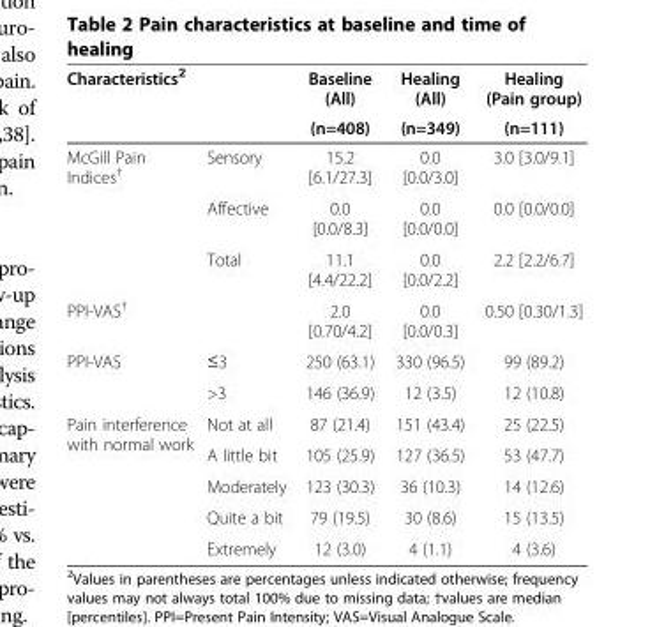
<table><thead><tr><td rowspan="2">Characteristics<sup>2</sup></td><td rowspan="2"></td><td rowspan="2">Baseline (All) (n=408)</td><td rowspan="2">Healing (All) (n=349)</td><td rowspan="2">Healing (Pain group) (n=111)</td></tr><tr></tr></thead><tbody><tr><td rowspan="3">McGill Pain Indices<sup>†</sup></td><td>Sensory</td><td>15.2 [6.1/27.3]</td><td>0.0 [0.0/3.0]</td><td>3.0 [3.0/9.1]</td></tr><tr><td>Affective</td><td>0.0 [0.0/8.3]</td><td>0.0 [0.0/0.0]</td><td>0.0 [0.0/0.0]</td></tr><tr><td>Total</td><td>11.1 [4.4/22.2]</td><td>0.0 [0.0/2.2]</td><td>2.2 [2.2/6.7]</td></tr><tr><td>PPI-VAS<sup>†</sup></td><td></td><td>2.0 [0.70/4.2]</td><td>0.0 [0.0/0.3]</td><td>0.50 [0.30/1.3]</td></tr><tr><td rowspan="2">PPI-VAS</td><td>≤3</td><td>250 (63.1)</td><td>330 (96.5)</td><td>99 (89.2)</td></tr><tr><td>&gt;3</td><td>146 (36.9)</td><td>12 (3.5)</td><td>12 (10.8)</td></tr><tr><td rowspan="5">Pain interference with normal work</td><td>Not at all</td><td>87 (21.4)</td><td>151 (43.4)</td><td>25 (22.5)</td></tr><tr><td>A little bit</td><td>105 (25.9)</td><td>127 (36.5)</td><td>53 (47.7)</td></tr><tr><td>Moderately</td><td>123 (30.3)</td><td>36 (10.3)</td><td>14 (12.6)</td></tr><tr><td>Quite a bit</td><td>79 (19.5)</td><td>30 (8.6)</td><td>15 (13.5)</td></tr><tr><td>Extremely</td><td>12 (3.0)</td><td>4 (1.1)</td><td>4 (3.6)</td></tr></tbody></table>